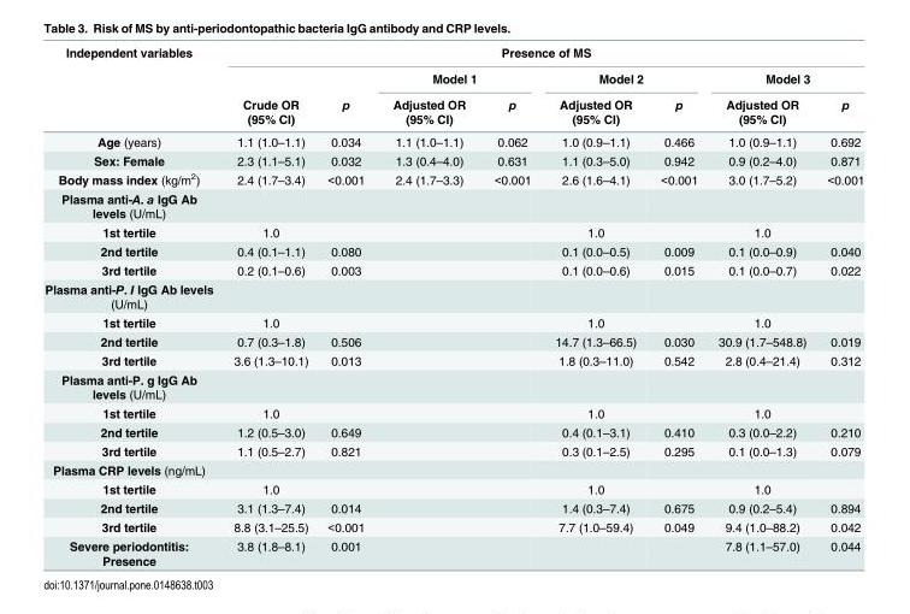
<table><thead><tr><td rowspan="3">Independent variables</td><td colspan="8">Presence of MS</td></tr><tr><td rowspan="2">Crude OR (95% CI)</td><td rowspan="2">p</td><td colspan="2">Model 1</td><td colspan="2">Model 2</td><td colspan="2">Model 3</td></tr><tr><td>Adjusted OR (95% CI)</td><td>p</td><td>Adjusted OR (95% CI)</td><td>p</td><td>Adjusted OR (95% CI)</td><td>p</td></tr></thead><tbody><tr><td>Age (years)</td><td>1.1 (1.0–1.1)</td><td>0.034</td><td>1.1 (1.0–1.1)</td><td>0.062</td><td>1.0 (0.9–1.1)</td><td>0.466</td><td>1.0 (0.9–1.1)</td><td>0.692</td></tr><tr><td>Sex: Female</td><td>2.3 (1.1–5.1)</td><td>0.032</td><td>1.3 (0.4–4.0)</td><td>0.631</td><td>1.1 (0.3–5.0)</td><td>0.942</td><td>0.9 (0.2–4.0)</td><td>0.871</td></tr><tr><td>Body mass index (kg/m<sup>2</sup>)</td><td>2.4 (1.7–3.4)</td><td>&lt;0.001</td><td>2.4 (1.7–3.3)</td><td>&lt;0.001</td><td>2.6 (1.6–4.1)</td><td>&lt;0.001</td><td>3.0 (1.7–5.2)</td><td>&lt;0.001</td></tr><tr><td colspan="9">Plasma anti-A. a IgG Ab levels (U/mL)</td></tr><tr><td>1st tertile</td><td>1.0</td><td></td><td></td><td></td><td>1.0</td><td></td><td>1.0</td><td></td></tr><tr><td>2nd tertile</td><td>0.4 (0.1–1.1)</td><td>0.080</td><td></td><td></td><td>0.1 (0.0–0.5)</td><td>0.009</td><td>0.1 (0.0–0.9)</td><td>0.040</td></tr><tr><td>3rd tertile</td><td>0.2 (0.1–0.6)</td><td>0.003</td><td></td><td></td><td>0.1 (0.0–0.6)</td><td>0.015</td><td>0.1 (0.0–0.7)</td><td>0.022</td></tr><tr><td colspan="9">Plasma anti-P. I IgG Ab levels (U/mL)</td></tr><tr><td>1st tertile</td><td>1.0</td><td></td><td></td><td></td><td>1.0</td><td></td><td>1.0</td><td></td></tr><tr><td>2nd tertile</td><td>0.7 (0.3–1.8)</td><td>0.506</td><td></td><td></td><td>14.7 (1.3–66.5)</td><td>0.030</td><td>30.9 (1.7–548.8)</td><td>0.019</td></tr><tr><td>3rd tertile</td><td>3.6 (1.3–10.1)</td><td>0.013</td><td></td><td></td><td>1.8 (0.3–11.0)</td><td>0.542</td><td>2.8 (0.4–21.4)</td><td>0.312</td></tr><tr><td colspan="9">Plasma anti-P. g IgG Ab levels (U/mL)</td></tr><tr><td>1st tertile</td><td>1.0</td><td></td><td></td><td></td><td>1.0</td><td></td><td>1.0</td><td></td></tr><tr><td>2nd tertile</td><td>1.2 (0.5–3.0)</td><td>0.649</td><td></td><td></td><td>0.4 (0.1–3.1)</td><td>0.410</td><td>0.3 (0.0–2.2)</td><td>0.210</td></tr><tr><td>3rd tertile</td><td>1.1 (0.5–2.7)</td><td>0.821</td><td></td><td></td><td>0.3 (0.1–2.5)</td><td>0.295</td><td>0.1 (0.0–1.3)</td><td>0.079</td></tr><tr><td colspan="9">Plasma CRP levels (ng/mL)</td></tr><tr><td>1st tertile</td><td>1.0</td><td></td><td></td><td></td><td>1.0</td><td></td><td>1.0</td><td></td></tr><tr><td>2nd tertile</td><td>3.1 (1.3–7.4)</td><td>0.014</td><td></td><td></td><td>1.4 (0.3–7.4)</td><td>0.675</td><td>0.9 (0.2–5.4)</td><td>0.894</td></tr><tr><td>3rd tertile</td><td>8.8 (3.1–25.5)</td><td>&lt;0.001</td><td></td><td></td><td>7.7 (1.0–59.4)</td><td>0.049</td><td>9.4 (1.0–88.2)</td><td>0.042</td></tr><tr><td>Severe periodontitis: Presence</td><td>3.8 (1.8–8.1)</td><td>0.001</td><td></td><td></td><td></td><td></td><td>7.8 (1.1–57.0)</td><td>0.044</td></tr></tbody></table>